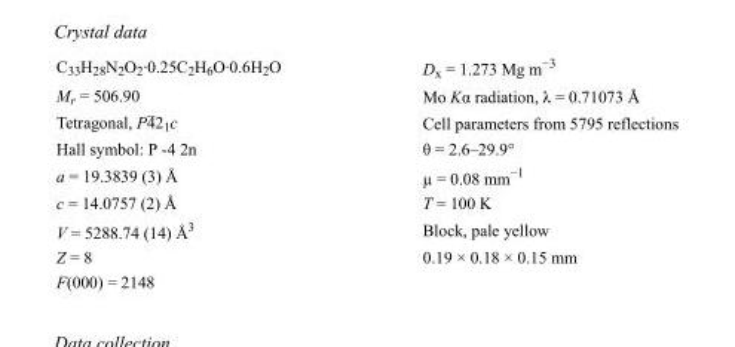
<table><tbody><tr><td>C<sub>33</sub>H<sub>28</sub>N<sub>2</sub>O<sub>2</sub>·0.25C<sub>2</sub>H<sub>6</sub>O·0.6H<sub>2</sub>O</td><td>D<sub>x</sub> = 1.273 Mg m<sup>−3</sup></td></tr><tr><td>M<sub>r</sub> = 506.90</td><td>Mo Kα radiation, λ = 0.71073 Å</td></tr><tr><td>Tetragonal, P42<sub>1</sub>c</td><td>Cell parameters from 5795 reflections</td></tr><tr><td>Hall symbol: P -4 2n</td><td>θ = 2.6–29.9°</td></tr><tr><td>a = 19.3839 (3) Å</td><td>µ = 0.08 mm<sup>−1</sup></td></tr><tr><td>c = 14.0757 (2) Å</td><td>T = 100 K</td></tr><tr><td>V = 5288.74 (14) Å<sup>3</sup></td><td>Block, pale yellow</td></tr><tr><td>Z = 8</td><td>0.19 × 0.18 × 0.15 mm</td></tr><tr><td>F(000) = 2148</td><td></td></tr></tbody></table>